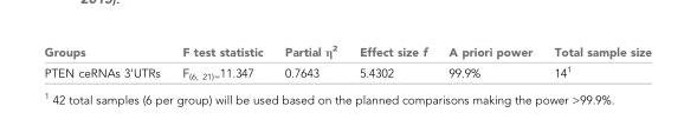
<table><thead><tr><td>Groups</td><td>F test statistic</td><td>Partial η<sup>2</sup></td><td>Effect size f</td><td>A priori power</td><td>Total sample size</td></tr></thead><tbody><tr><td>PTEN ceRNAs 3’UTRs</td><td>F<sub>(6, 21)=</sub>11.347</td><td>0.7643</td><td>5.4302</td><td>99.9%</td><td>14<sup>1</sup></td></tr></tbody></table>